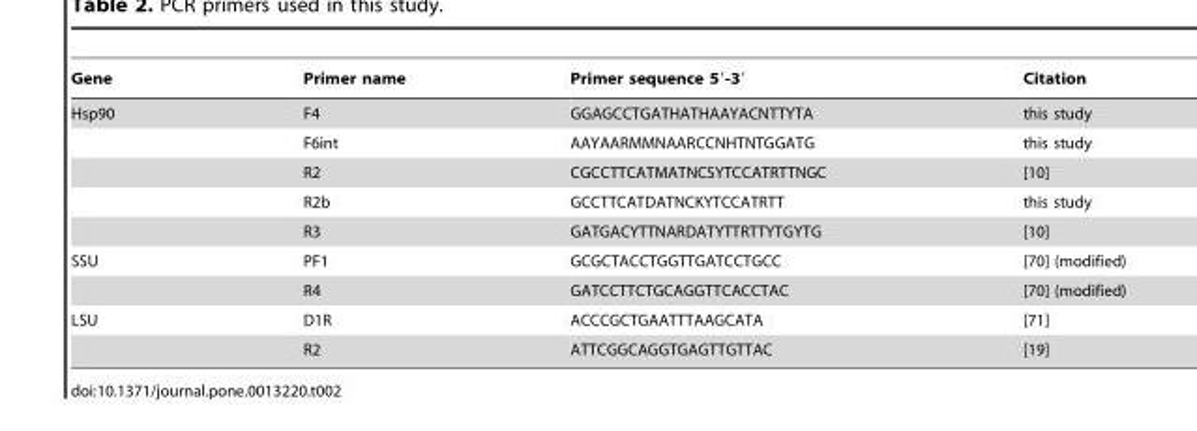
<table><thead><tr><td>Gene</td><td>Primer name</td><td>Primer sequence 5′-3′</td><td>Citation</td></tr></thead><tbody><tr><td rowspan="5">Hsp90</td><td>F4</td><td>GGAGCCTGATHATHAAYACNTTYTA</td><td>this study</td></tr><tr><td>F6int</td><td>AAYAARMMNAARCCNHTNTGGATG</td><td>this study</td></tr><tr><td>R2</td><td>CGCCTTCATMATNCSYTCCATRTTNGC</td><td>[10]</td></tr><tr><td>R2b</td><td>GCCTTCATDATNCKYTCCATRTT</td><td>this study</td></tr><tr><td>R3</td><td>GATGACYTTNARDATYTTRTTYTGYTG</td><td>[10]</td></tr><tr><td rowspan="2">SSU</td><td>PF1</td><td>GCGCTACCTGGTTGATCCTGCC</td><td>[70] (modified)</td></tr><tr><td>R4</td><td>GATCCTTCTGCAGGTTCACCTAC</td><td>[70] (modified)</td></tr><tr><td rowspan="2">LSU</td><td>D1R</td><td>ACCCGCTGAATTTAAGCATA</td><td>[71]</td></tr><tr><td>R2</td><td>ATTCGGCAGGTGAGTTGTTAC</td><td>[19]</td></tr></tbody></table>